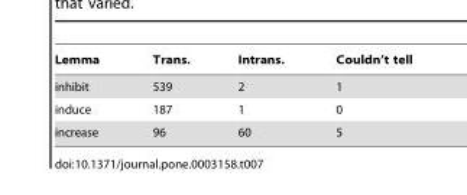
<table><thead><tr><td>Lemma</td><td>Trans.</td><td>Intrans.</td><td>Couldn’t tell</td></tr></thead><tbody><tr><td>inhibit</td><td>539</td><td>2</td><td>1</td></tr><tr><td>induce</td><td>187</td><td>1</td><td>0</td></tr><tr><td>increase</td><td>96</td><td>60</td><td>5</td></tr></tbody></table>